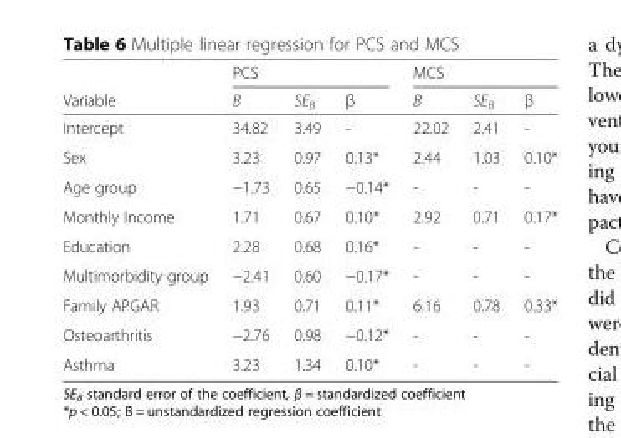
<table><thead><tr><td rowspan="2">Variable</td><td colspan="3">PCS</td><td colspan="3">MCS</td></tr><tr><td>B</td><td>SE<sub>B</sub></td><td>β</td><td>B</td><td>SE<sub>B</sub></td><td>β</td></tr></thead><tbody><tr><td>Intercept</td><td>34.82</td><td>3.49</td><td>-</td><td>22.02</td><td>2.41</td><td>-</td></tr><tr><td>Sex</td><td>3.23</td><td>0.97</td><td>0.13*</td><td>2.44</td><td>1.03</td><td>0.10*</td></tr><tr><td>Age group</td><td>−1.73</td><td>0.65</td><td>−0.14*</td><td>-</td><td>-</td><td>-</td></tr><tr><td>Monthly Income</td><td>1.71</td><td>0.67</td><td>0.10*</td><td>2.92</td><td>0.71</td><td>0.17*</td></tr><tr><td>Education</td><td>2.28</td><td>0.68</td><td>0.16*</td><td>-</td><td>-</td><td>-</td></tr><tr><td>Multimorbidity group</td><td>−2.41</td><td>0.60</td><td>−0.17*</td><td>-</td><td>-</td><td>-</td></tr><tr><td>Family APGAR</td><td>1.93</td><td>0.71</td><td>0.11*</td><td>6.16</td><td>0.78</td><td>0.33*</td></tr><tr><td>Osteoarthritis</td><td>−2.76</td><td>0.98</td><td>−0.12*</td><td>-</td><td>-</td><td>-</td></tr><tr><td>Asthma</td><td>3.23</td><td>1.34</td><td>0.10*</td><td>-</td><td>-</td><td>-</td></tr></tbody></table>